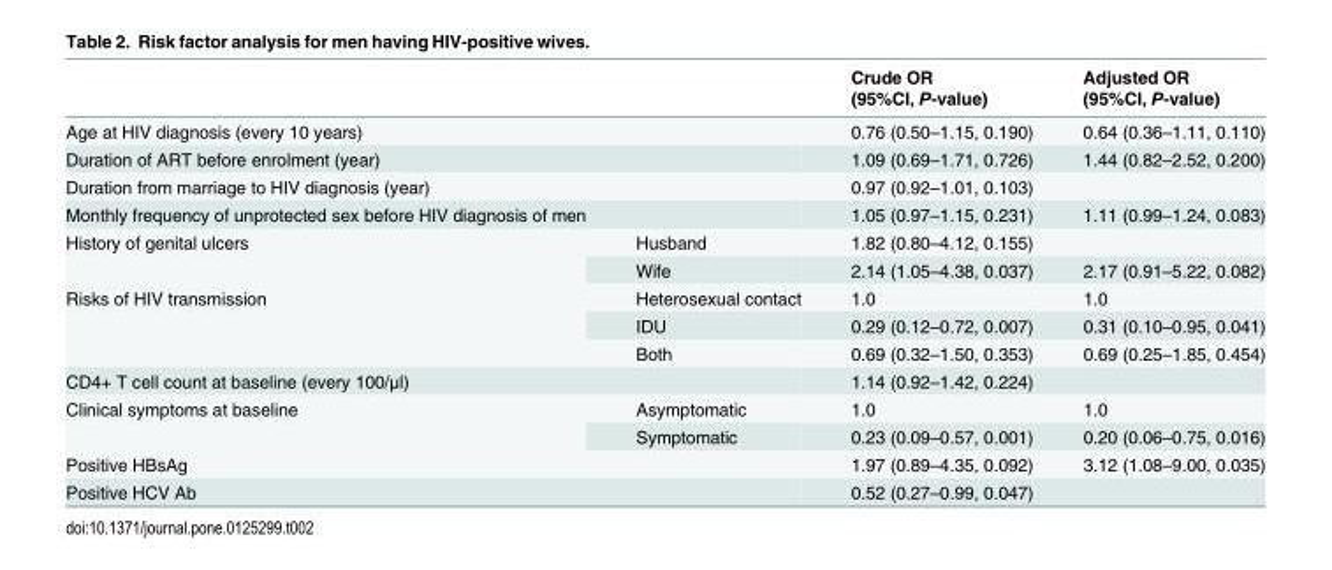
<table><thead><tr><td></td><td></td><td>Crude OR (95%CI, P-value)</td><td>Adjusted OR (95%CI, P-value)</td></tr></thead><tbody><tr><td>Age at HIV diagnosis (every 10 years)</td><td></td><td>0.76 (0.50–1.15, 0.190)</td><td>0.64 (0.36–1.11, 0.110)</td></tr><tr><td>Duration of ART before enrolment (year)</td><td></td><td>1.09 (0.69–1.71, 0.726)</td><td>1.44 (0.82–2.52, 0.200)</td></tr><tr><td>Duration from marriage to HIV diagnosis (year)</td><td></td><td>0.97 (0.92–1.01, 0.103)</td><td></td></tr><tr><td>Monthly frequency of unprotected sex before HIV diagnosis of men</td><td></td><td>1.05 (0.97–1.15, 0.231)</td><td>1.11 (0.99–1.24, 0.083)</td></tr><tr><td rowspan="2">History of genital ulcers</td><td>Husband</td><td>1.82 (0.80–4.12, 0.155)</td><td></td></tr><tr><td>Wife</td><td>2.14 (1.05–4.38, 0.037)</td><td>2.17 (0.91–5.22, 0.082)</td></tr><tr><td rowspan="3">Risks of HIV transmission</td><td>Heterosexual contact</td><td>1.0</td><td>1.0</td></tr><tr><td>IDU</td><td>0.29 (0.12–0.72, 0.007)</td><td>0.31 (0.10–0.95, 0.041)</td></tr><tr><td>Both</td><td>0.69 (0.32–1.50, 0.353)</td><td>0.69 (0.25–1.85, 0.454)</td></tr><tr><td>CD4+ T cell count at baseline (every 100/μl)</td><td></td><td>1.14 (0.92–1.42, 0.224)</td><td></td></tr><tr><td rowspan="2">Clinical symptoms at baseline</td><td>Asymptomatic</td><td>1.0</td><td>1.0</td></tr><tr><td>Symptomatic</td><td>0.23 (0.09–0.57, 0.001)</td><td>0.20 (0.06–0.75, 0.016)</td></tr><tr><td>Positive HBsAg</td><td></td><td>1.97 (0.89–4.35, 0.092)</td><td>3.12 (1.08–9.00, 0.035)</td></tr><tr><td>Positive HCV Ab</td><td></td><td>0.52 (0.27–0.99, 0.047)</td><td></td></tr></tbody></table>